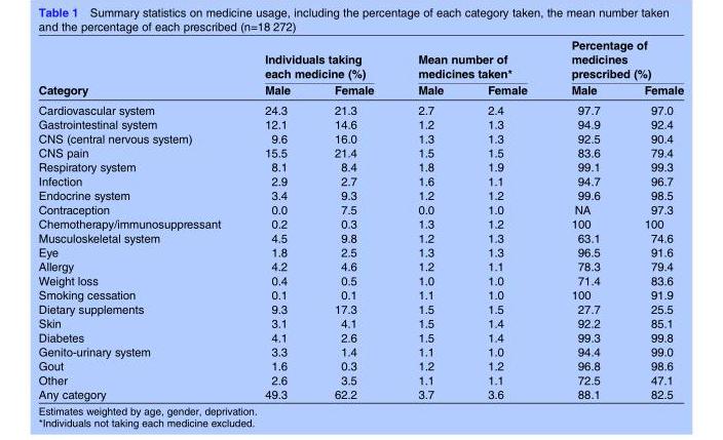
<table><thead><tr><td rowspan="2">Category</td><td colspan="2">Individuals taking each medicine (%)</td><td colspan="2">Mean number of medicines taken*</td><td colspan="2">Percentage of medicines prescribed (%)</td></tr><tr><td>Male</td><td>Female</td><td>Male</td><td>Female</td><td>Male</td><td>Female</td></tr></thead><tbody><tr><td>Cardiovascular system</td><td>24.3</td><td>21.3</td><td>2.7</td><td>2.4</td><td>97.7</td><td>97.0</td></tr><tr><td>Gastrointestinal system</td><td>12.1</td><td>14.6</td><td>1.2</td><td>1.3</td><td>94.9</td><td>92.4</td></tr><tr><td>CNS (central nervous system)</td><td>9.6</td><td>16.0</td><td>1.3</td><td>1.3</td><td>92.5</td><td>90.4</td></tr><tr><td>CNS pain</td><td>15.5</td><td>21.4</td><td>1.5</td><td>1.5</td><td>83.6</td><td>79.4</td></tr><tr><td>Respiratory system</td><td>8.1</td><td>8.4</td><td>1.8</td><td>1.9</td><td>99.1</td><td>99.3</td></tr><tr><td>Infection</td><td>2.9</td><td>2.7</td><td>1.6</td><td>1.1</td><td>94.7</td><td>96.7</td></tr><tr><td>Endocrine system</td><td>3.4</td><td>9.3</td><td>1.2</td><td>1.2</td><td>99.6</td><td>98.5</td></tr><tr><td>Contraception</td><td>0.0</td><td>7.5</td><td>0.0</td><td>1.0</td><td>NA</td><td>97.3</td></tr><tr><td>Chemotherapy/immunosuppressant</td><td>0.2</td><td>0.3</td><td>1.3</td><td>1.2</td><td>100</td><td>100</td></tr><tr><td>Musculoskeletal system</td><td>4.5</td><td>9.8</td><td>1.2</td><td>1.3</td><td>63.1</td><td>74.6</td></tr><tr><td>Eye</td><td>1.8</td><td>2.5</td><td>1.3</td><td>1.3</td><td>96.5</td><td>91.6</td></tr><tr><td>Allergy</td><td>4.2</td><td>4.6</td><td>1.2</td><td>1.1</td><td>78.3</td><td>79.4</td></tr><tr><td>Weight loss</td><td>0.4</td><td>0.5</td><td>1.0</td><td>1.0</td><td>71.4</td><td>83.6</td></tr><tr><td>Smoking cessation</td><td>0.1</td><td>0.1</td><td>1.1</td><td>1.0</td><td>100</td><td>91.9</td></tr><tr><td>Dietary supplements</td><td>9.3</td><td>17.3</td><td>1.5</td><td>1.5</td><td>27.7</td><td>25.5</td></tr><tr><td>Skin</td><td>3.1</td><td>4.1</td><td>1.5</td><td>1.4</td><td>92.2</td><td>85.1</td></tr><tr><td>Diabetes</td><td>4.1</td><td>2.6</td><td>1.5</td><td>1.4</td><td>99.3</td><td>99.8</td></tr><tr><td>Genito-urinary system</td><td>3.3</td><td>1.4</td><td>1.1</td><td>1.0</td><td>94.4</td><td>99.0</td></tr><tr><td>Gout</td><td>1.6</td><td>0.3</td><td>1.2</td><td>1.2</td><td>96.8</td><td>98.6</td></tr><tr><td>Other</td><td>2.6</td><td>3.5</td><td>1.1</td><td>1.1</td><td>72.5</td><td>47.1</td></tr><tr><td>Any category</td><td>49.3</td><td>62.2</td><td>3.7</td><td>3.6</td><td>88.1</td><td>82.5</td></tr></tbody></table>